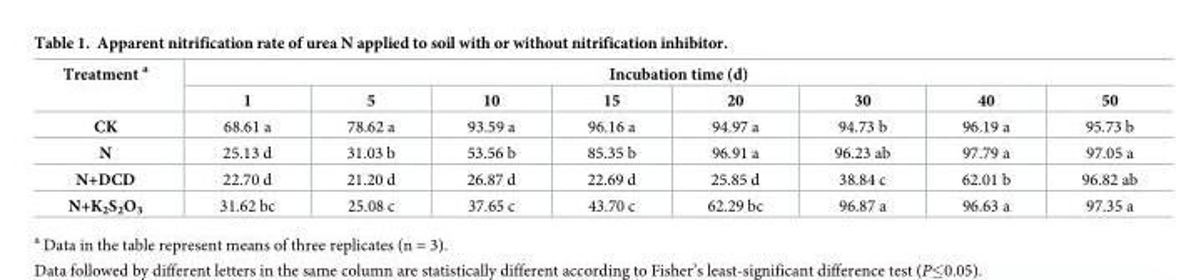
<table><thead><tr><td rowspan="2">Treatment <sup>a</sup></td><td colspan="8">Incubation time (d)</td></tr><tr><td>1</td><td>5</td><td>10</td><td>15</td><td>20</td><td>30</td><td>40</td><td>50</td></tr></thead><tbody><tr><td>CK</td><td>68.61 a</td><td>78.62 a</td><td>93.59 a</td><td>96.16 a</td><td>94.97 a</td><td>94.73 b</td><td>96.19 a</td><td>95.73 b</td></tr><tr><td>N</td><td>25.13 d</td><td>31.03 b</td><td>53.56 b</td><td>85.35 b</td><td>96.91 a</td><td>96.23 ab</td><td>97.79 a</td><td>97.05 a</td></tr><tr><td>N+DCD</td><td>22.70 d</td><td>21.20 d</td><td>26.87 d</td><td>22.69 d</td><td>25.85 d</td><td>38.84 c</td><td>62.01 b</td><td>96.82 ab</td></tr><tr><td>N+K<sub>2</sub>S<sub>2</sub>O<sub>3</sub></td><td>31.62 bc</td><td>25.08 c</td><td>37.65 c</td><td>43.70 c</td><td>62.29 bc</td><td>96.87 a</td><td>96.63 a</td><td>97.35 a</td></tr></tbody></table>